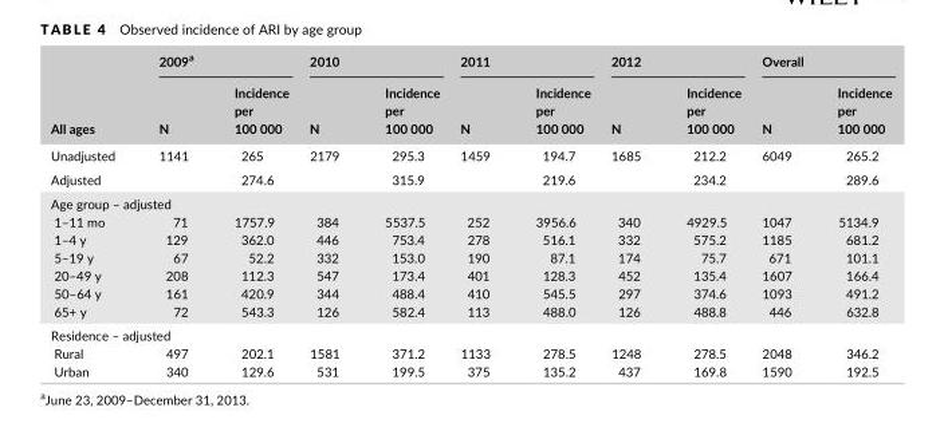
<table><thead><tr><td rowspan="2">All ages</td><td colspan="2">2009<sup>a</sup></td><td colspan="2">2010</td><td colspan="2">2011</td><td colspan="2">2012</td><td colspan="2">Overall</td></tr><tr><td>N</td><td>Incidence per 100 000</td><td>N</td><td>Incidence per 100 000</td><td>N</td><td>Incidence per 100 000</td><td>N</td><td>Incidence per 100 000</td><td>N</td><td>Incidence per 100 000</td></tr></thead><tbody><tr><td>Unadjusted</td><td rowspan="2">1141</td><td>265</td><td rowspan="2">2179</td><td>295.3</td><td rowspan="2">1459</td><td>194.7</td><td rowspan="2">1685</td><td>212.2</td><td rowspan="2">6049</td><td>265.2</td></tr><tr><td>Adjusted</td><td>274.6</td><td>315.9</td><td>219.6</td><td>234.2</td><td>289.6</td></tr><tr><td colspan="11">Age group – adjusted</td></tr><tr><td>1–11 mo</td><td>71</td><td>1757.9</td><td>384</td><td>5537.5</td><td>252</td><td>3956.6</td><td>340</td><td>4929.5</td><td>1047</td><td>5134.9</td></tr><tr><td>1–4 y</td><td>129</td><td>362.0</td><td>446</td><td>753.4</td><td>278</td><td>516.1</td><td>332</td><td>575.2</td><td>1185</td><td>681.2</td></tr><tr><td>5–19 y</td><td>67</td><td>52.2</td><td>332</td><td>153.0</td><td>190</td><td>87.1</td><td>174</td><td>75.7</td><td>671</td><td>101.1</td></tr><tr><td>20–49 y</td><td>208</td><td>112.3</td><td>547</td><td>173.4</td><td>401</td><td>128.3</td><td>452</td><td>135.4</td><td>1607</td><td>166.4</td></tr><tr><td>50–64 y</td><td>161</td><td>420.9</td><td>344</td><td>488.4</td><td>410</td><td>545.5</td><td>297</td><td>374.6</td><td>1093</td><td>491.2</td></tr><tr><td>65+ y</td><td>72</td><td>543.3</td><td>126</td><td>582.4</td><td>113</td><td>488.0</td><td>126</td><td>488.8</td><td>446</td><td>632.8</td></tr><tr><td colspan="11">Residence – adjusted</td></tr><tr><td>Rural</td><td>497</td><td>202.1</td><td>1581</td><td>371.2</td><td>1133</td><td>278.5</td><td>1248</td><td>278.5</td><td>2048</td><td>346.2</td></tr><tr><td>Urban</td><td>340</td><td>129.6</td><td>531</td><td>199.5</td><td>375</td><td>135.2</td><td>437</td><td>169.8</td><td>1590</td><td>192.5</td></tr></tbody></table>